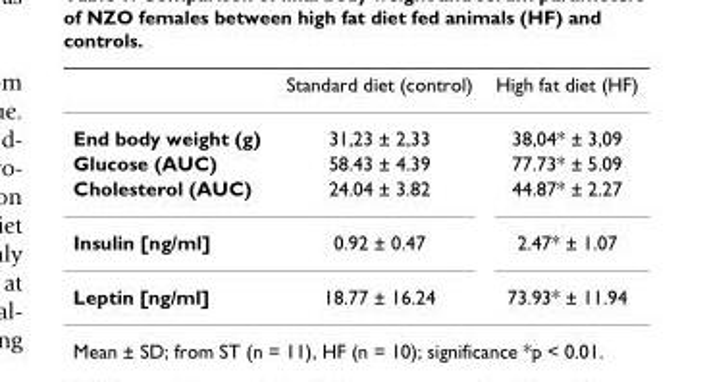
<table><thead><tr><td></td><td>Standard diet (control)</td><td>High fat diet (HF)</td></tr></thead><tbody><tr><td>End body weight (g)</td><td>31,23 ± 2,33</td><td>38,04* ± 3,09</td></tr><tr><td>Glucose (AUC)</td><td>58.43 ± 4.39</td><td>77.73* ± 5.09</td></tr><tr><td>Cholesterol (AUC)</td><td>24.04 ± 3.82</td><td>44.87* ± 2.27</td></tr><tr><td>Insulin [ng/ml]</td><td>0.92 ± 0.47</td><td>2.47* ± 1.07</td></tr><tr><td>Leptin [ng/ml]</td><td>18.77 ± 16.24</td><td>73.93* ± 11.94</td></tr></tbody></table>